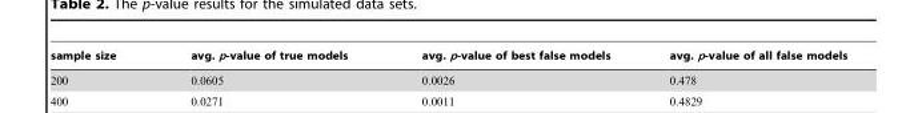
<table><thead><tr><td>sample size</td><td>avg. p-value of true models</td><td>avg. p-value of best false models</td><td>avg. p-value of all false models</td></tr></thead><tbody></tbody></table>